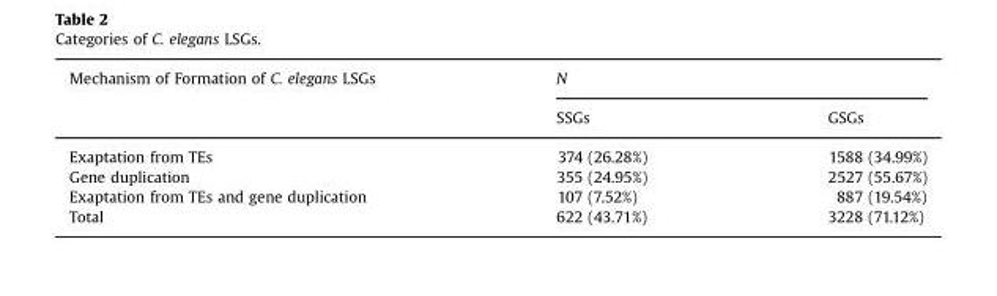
<table><thead><tr><td rowspan="2">Mechanism of Formation of C. elegans LSGs</td><td colspan="2">N</td></tr><tr><td>SSGs</td><td>GSGs</td></tr></thead><tbody><tr><td>Exaptation from TEs</td><td>374 (26.28%)</td><td>1588 (34.99%)</td></tr><tr><td>Gene duplication</td><td>355 (24.95%)</td><td>2527 (55.67%)</td></tr><tr><td>Exaptation from TEs and gene duplication</td><td>107 (7.52%)</td><td>887 (19.54%)</td></tr><tr><td>Total</td><td>622 (43.71%)</td><td>3228 (71.12%)</td></tr></tbody></table>